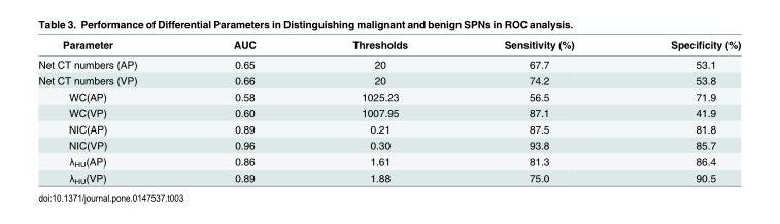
<table><thead><tr><td>Parameter</td><td>AUC</td><td>Thresholds</td><td>Sensitivity (%)</td><td>Specificity (%)</td></tr></thead><tbody><tr><td>Net CT numbers (AP)</td><td>0.65</td><td>20</td><td>67.7</td><td>53.1</td></tr><tr><td>Net CT numbers (VP)</td><td>0.66</td><td>20</td><td>74.2</td><td>53.8</td></tr><tr><td>WC(AP)</td><td>0.58</td><td>1025.23</td><td>56.5</td><td>71.9</td></tr><tr><td>WC(VP)</td><td>0.60</td><td>1007.95</td><td>87.1</td><td>41.9</td></tr><tr><td>NIC(AP)</td><td>0.89</td><td>0.21</td><td>87.5</td><td>81.8</td></tr><tr><td>NIC(VP)</td><td>0.96</td><td>0.30</td><td>93.8</td><td>85.7</td></tr><tr><td>λ<sub>HU</sub>(AP)</td><td>0.86</td><td>1.61</td><td>81.3</td><td>86.4</td></tr><tr><td>λ<sub>HU</sub>(VP)</td><td>0.89</td><td>1.88</td><td>75.0</td><td>90.5</td></tr></tbody></table>